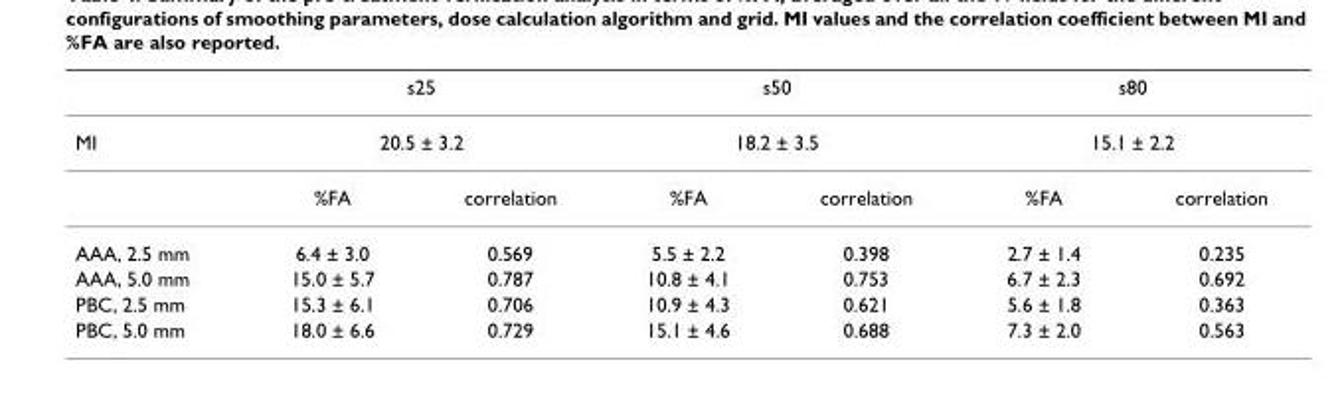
<table><thead><tr><td rowspan="3">MI</td><td rowspan="2" colspan="2">s25 20.5 ± 3.2</td><td rowspan="2" colspan="2">s50 18.2 ± 3.5</td><td rowspan="2" colspan="2">s80 15.1 ± 2.2</td></tr><tr></tr><tr><td>%FA</td><td>correlation</td><td>%FA</td><td>correlation</td><td>%FA</td><td>correlation</td></tr></thead><tbody><tr><td>AAA, 2.5 mm</td><td>6.4 ± 3.0</td><td>0.569</td><td>5.5 ± 2.2</td><td>0.398</td><td>2.7 ± 1.4</td><td>0.235</td></tr><tr><td>AAA, 5.0 mm</td><td>15.0 ± 5.7</td><td>0.787</td><td>10.8 ± 4.1</td><td>0.753</td><td>6.7 ± 2.3</td><td>0.692</td></tr><tr><td>PBC, 2.5 mm</td><td>15.3 ± 6.1</td><td>0.706</td><td>10.9 ± 4.3</td><td>0.621</td><td>5.6 ± 1.8</td><td>0.363</td></tr><tr><td>PBC, 5.0 mm</td><td>18.0 ± 6.6</td><td>0.729</td><td>15.1 ± 4.6</td><td>0.688</td><td>7.3 ± 2.0</td><td>0.563</td></tr></tbody></table>